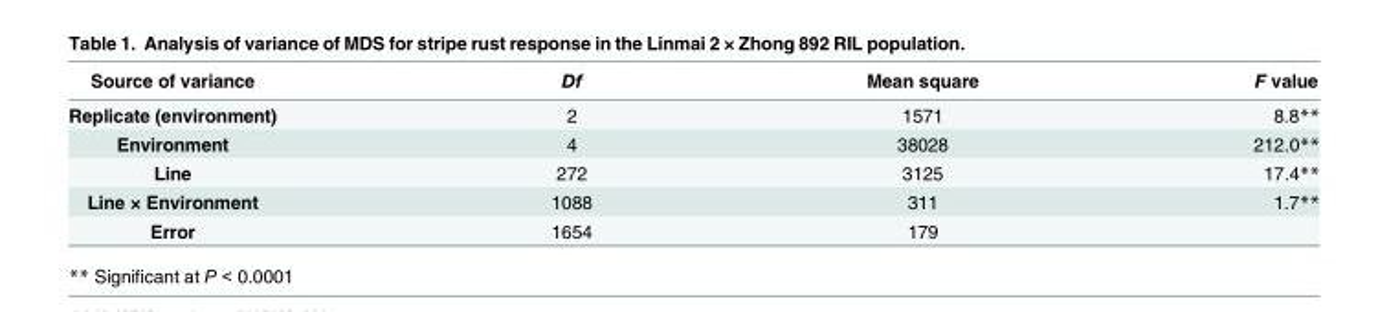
<table><thead><tr><td>Source of variance</td><td>Df</td><td>Mean square</td><td>F value</td></tr></thead><tbody><tr><td>Replicate (environment)</td><td>2</td><td>1571</td><td>8.8**</td></tr><tr><td>Environment</td><td>4</td><td>38028</td><td>212.0**</td></tr><tr><td>Line</td><td>272</td><td>3125</td><td>17.4**</td></tr><tr><td>Line × Environment</td><td>1088</td><td>311</td><td>1.7**</td></tr><tr><td>Error</td><td>1654</td><td>179</td><td></td></tr></tbody></table>